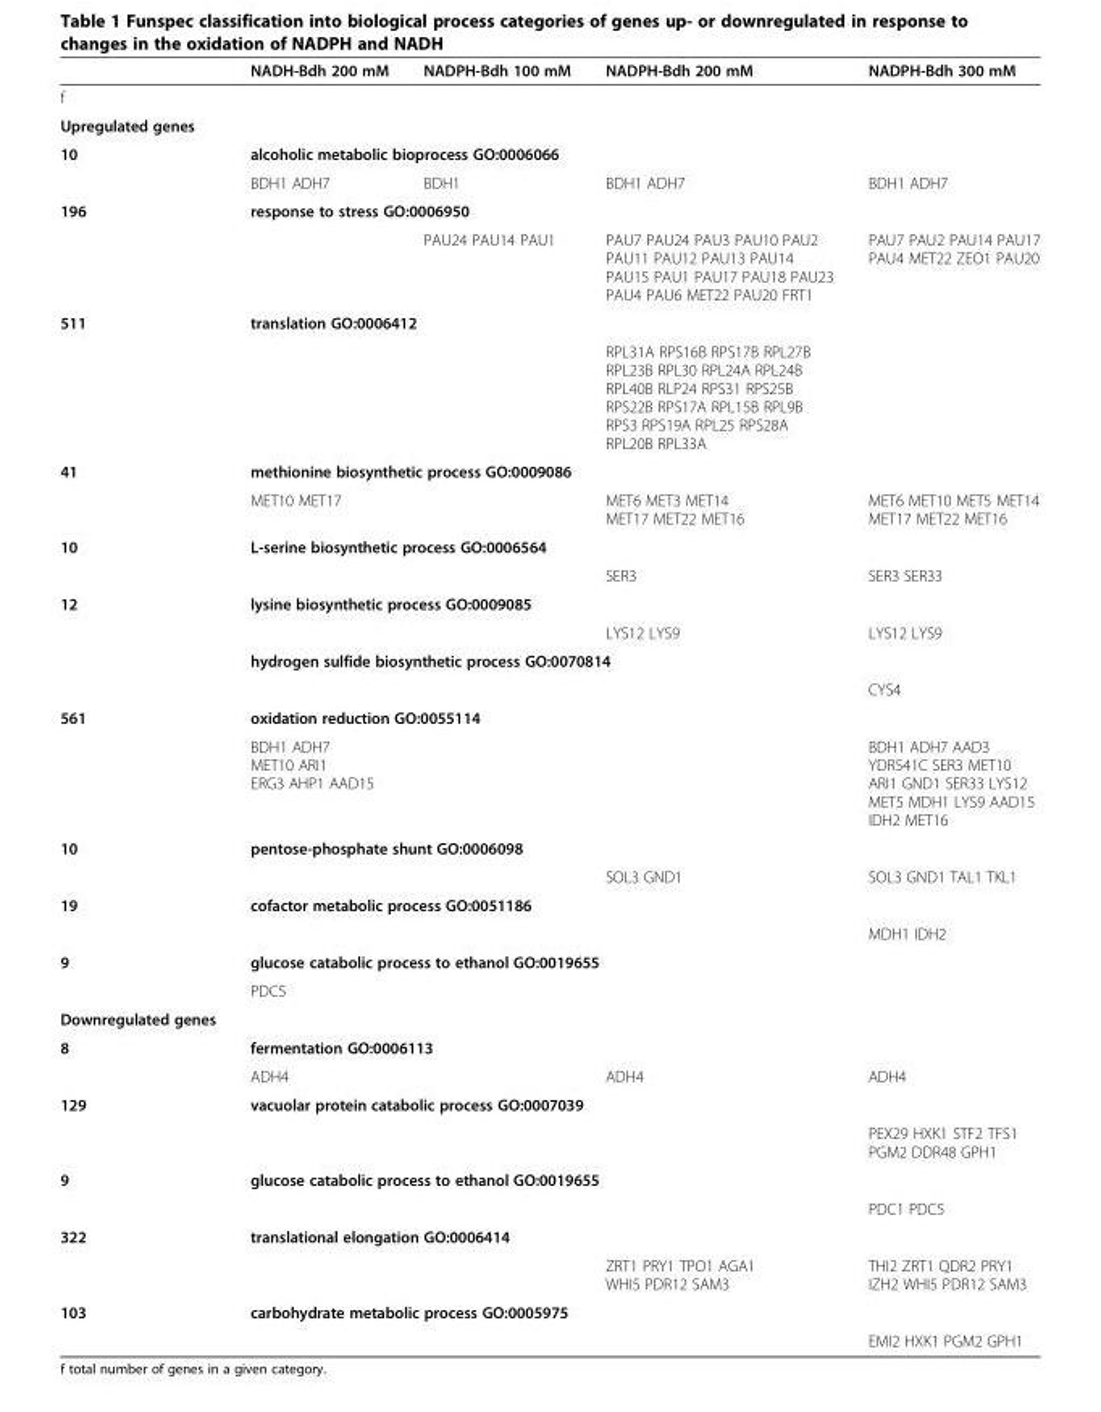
<table><thead><tr><td></td><td>NADH-Bdh 200 mM</td><td>NADPH-Bdh 100 mM</td><td>NADPH-Bdh 200 mM</td><td>NADPH-Bdh 300 mM</td></tr></thead><tbody><tr><td colspan="5">f</td></tr><tr><td colspan="5">Upregulated genes</td></tr><tr><td rowspan="2">10</td><td colspan="4">alcoholic metabolic bioprocess GO:0006066</td></tr><tr><td>BDH1 ADH7</td><td>BDH1</td><td>BDH1 ADH7</td><td>BDH1 ADH7</td></tr><tr><td rowspan="2">196</td><td colspan="4">response to stress GO:0006950</td></tr><tr><td></td><td>PAU24 PAU14 PAU1</td><td>PAU7 PAU24 PAU3 PAU10 PAU2 PAU11 PAU12 PAU13 PAU14 PAU15 PAU1 PAU17 PAU18 PAU23 PAU4 PAU6 MET22 PAU20 FRT1</td><td>PAU7 PAU2 PAU14 PAU17 PAU4 MET22 ZEO1 PAU20</td></tr><tr><td rowspan="2">511</td><td colspan="4">translation GO:0006412</td></tr><tr><td></td><td></td><td>RPL31A RPS16B RPS17B RPL27B RPL23B RPL30 RPL24A RPL24B RPL40B RLP24 RPS31 RPS25B RPS22B RPS17A RPL15B RPL9B RPS3 RPS19A RPL25 RPS28A RPL20B RPL33A</td><td></td></tr><tr><td rowspan="2">41</td><td colspan="4">methionine biosynthetic process GO:0009086</td></tr><tr><td>MET10 MET17</td><td></td><td>MET6 MET3 MET14 MET17 MET22 MET16</td><td>MET6 MET10 MET5 MET14 MET17 MET22 MET16</td></tr><tr><td rowspan="2">10</td><td colspan="4">L-serine biosynthetic process GO:0006564</td></tr><tr><td></td><td></td><td>SER3</td><td>SER3 SER33</td></tr><tr><td rowspan="4">12</td><td colspan="4">lysine biosynthetic process GO:0009085</td></tr><tr><td></td><td></td><td>LYS12 LYS9</td><td>LYS12 LYS9</td></tr><tr><td colspan="4">hydrogen sulfide biosynthetic process GO:0070814</td></tr><tr><td></td><td></td><td></td><td>CYS4</td></tr><tr><td rowspan="2">561</td><td colspan="4">oxidation reduction GO:0055114</td></tr><tr><td>BDH1 ADH7 MET10 ARI1 ERG3 AHP1 AAD15</td><td></td><td></td><td>BDH1 ADH7 AAD3 YDR541C SER3 MET10 ARI1 GND1 SER33 LYS12 MET5 MDH1 LYS9 AAD15 IDH2 MET16</td></tr><tr><td rowspan="2">10</td><td colspan="4">pentose-phosphate shunt GO:0006098</td></tr><tr><td></td><td></td><td>SOL3 GND1</td><td>SOL3 GND1 TAL1 TKL1</td></tr><tr><td rowspan="2">19</td><td colspan="4">cofactor metabolic process GO:0051186</td></tr><tr><td></td><td></td><td></td><td>MDH1 IDH2</td></tr><tr><td rowspan="2">9</td><td colspan="4">glucose catabolic process to ethanol GO:0019655</td></tr><tr><td>PDC5</td><td></td><td></td><td></td></tr><tr><td colspan="5">Downregulated genes</td></tr><tr><td rowspan="2">8</td><td colspan="4">fermentation GO:0006113</td></tr><tr><td>ADH4</td><td></td><td>ADH4</td><td>ADH4</td></tr><tr><td rowspan="2">129</td><td colspan="4">vacuolar protein catabolic process GO:0007039</td></tr><tr><td></td><td></td><td></td><td>PEX29 HXK1 STF2 TFS1 PGM2 DDR48 GPH1</td></tr><tr><td rowspan="2">9</td><td colspan="4">glucose catabolic process to ethanol GO:0019655</td></tr><tr><td></td><td></td><td></td><td>PDC1 PDC5</td></tr><tr><td rowspan="2">322</td><td colspan="4">translational elongation GO:0006414</td></tr><tr><td></td><td></td><td>ZRT1 PRY1 TPO1 AGA1 WHI5 PDR12 SAM3</td><td>THI2 ZRT1 QDR2 PRY1 IZH2 WHI5 PDR12 SAM3</td></tr><tr><td rowspan="2">103</td><td colspan="4">carbohydrate metabolic process GO:0005975</td></tr><tr><td></td><td></td><td></td><td>EMI2 HXK1 PGM2 GPH1</td></tr></tbody></table>